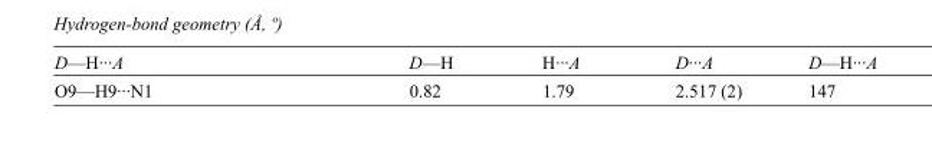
<table><tbody><tr><td>D—H···A</td><td>D—H</td><td>H···A</td><td>D···A</td><td>D—H···A</td></tr><tr><td>O9—H9···N1</td><td>0.82</td><td>1.79</td><td>2.517 (2)</td><td>147</td></tr></tbody></table>